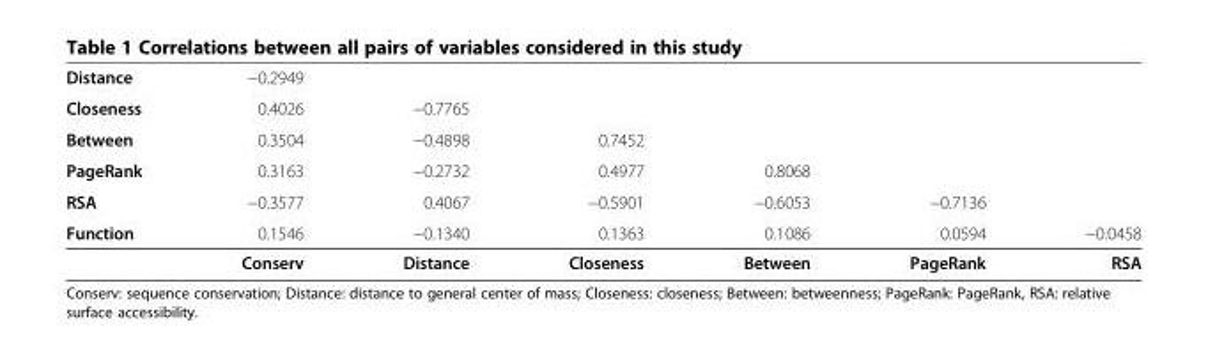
<table><tbody><tr><td>Distance</td><td>−0.2949</td><td></td><td></td><td></td><td></td><td></td></tr><tr><td>Closeness</td><td>0.4026</td><td>−0.7765</td><td></td><td></td><td></td><td></td></tr><tr><td>Between</td><td>0.3504</td><td>−0.4898</td><td>0.7452</td><td></td><td></td><td></td></tr><tr><td>PageRank</td><td>0.3163</td><td>−0.2732</td><td>0.4977</td><td>0.8068</td><td></td><td></td></tr><tr><td>RSA</td><td>−0.3577</td><td>0.4067</td><td>−0.5901</td><td>−0.6053</td><td>−0.7136</td><td></td></tr><tr><td rowspan="2">Function</td><td>0.1546</td><td>−0.1340</td><td>0.1363</td><td>0.1086</td><td>0.0594</td><td>−0.0458</td></tr><tr><td>Conserv</td><td>Distance</td><td>Closeness</td><td>Between</td><td>PageRank</td><td>RSA</td></tr></tbody></table>